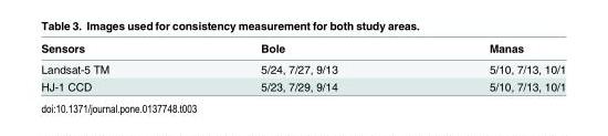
<table><thead><tr><td>Sensors</td><td>Bole</td><td>Manas</td></tr></thead><tbody><tr><td>Landsat-5 TM</td><td>5/24, 7/27, 9/13</td><td>5/10, 7/13, 10/1</td></tr><tr><td>HJ-1 CCD</td><td>5/23, 7/29, 9/14</td><td>5/10, 7/13, 10/1</td></tr></tbody></table>